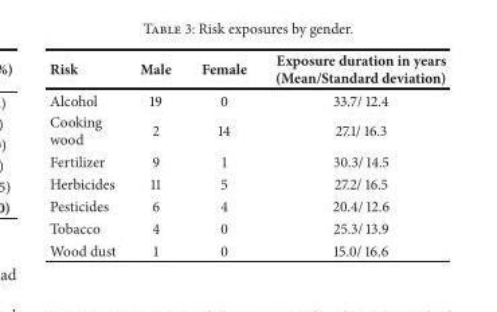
<table><thead><tr><td>Risk</td><td>Male</td><td>Female</td><td>Exposure duration in years (Mean/Standard deviation)</td></tr></thead><tbody><tr><td>Alcohol</td><td>19</td><td>0</td><td>33.7/ 12.4</td></tr><tr><td>Cooking wood</td><td>2</td><td>14</td><td>27.1/ 16.3</td></tr><tr><td>Fertilizer</td><td>9</td><td>1</td><td>30.3/ 14.5</td></tr><tr><td>Herbicides</td><td>11</td><td>5</td><td>27.2/ 16.5</td></tr><tr><td>Pesticides</td><td>6</td><td>4</td><td>20.4/ 12.6</td></tr><tr><td>Tobacco</td><td>4</td><td>0</td><td>25.3/ 13.9</td></tr><tr><td>Wood dust</td><td>1</td><td>0</td><td>15.0/ 16.6</td></tr></tbody></table>